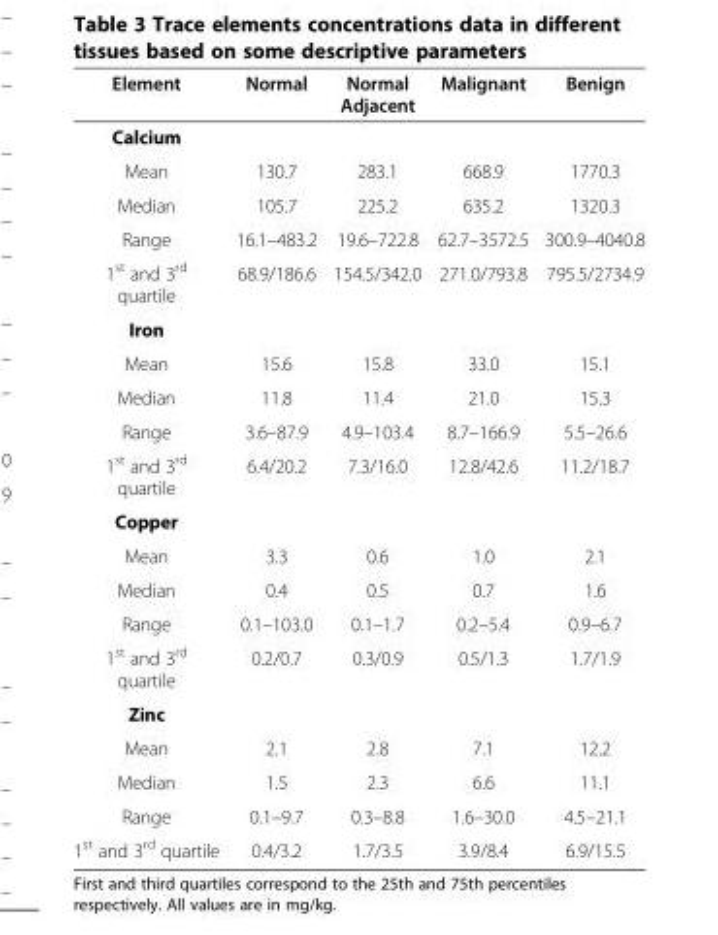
<table><thead><tr><td>Element</td><td>Normal</td><td>Normal Adjacent</td><td>Malignant</td><td>Benign</td></tr></thead><tbody><tr><td colspan="5">Calcium</td></tr><tr><td>Mean</td><td>130.7</td><td>283.1</td><td>668.9</td><td>1770.3</td></tr><tr><td>Median</td><td>105.7</td><td>225.2</td><td>635.2</td><td>1320.3</td></tr><tr><td>Range</td><td>16.1–483.2</td><td>19.6–722.8</td><td>62.7–3572.5</td><td>300.9–4040.8</td></tr><tr><td>1<sup>st</sup> and 3<sup>rd</sup> quartile</td><td>68.9/186.6</td><td>154.5/342.0</td><td>271.0/793.8</td><td>795.5/2734.9</td></tr><tr><td colspan="5">Iron</td></tr><tr><td>Mean</td><td>15.6</td><td>15.8</td><td>33.0</td><td>15.1</td></tr><tr><td>Median</td><td>11.8</td><td>11.4</td><td>21.0</td><td>15.3</td></tr><tr><td>Range</td><td>3.6–87.9</td><td>4.9–103.4</td><td>8.7–166.9</td><td>5.5–26.6</td></tr><tr><td>1<sup>st</sup> and 3<sup>rd</sup> quartile</td><td>6.4/20.2</td><td>7.3/16.0</td><td>12.8/42.6</td><td>11.2/18.7</td></tr><tr><td colspan="5">Copper</td></tr><tr><td>Mean</td><td>3.3</td><td>0.6</td><td>1.0</td><td>2.1</td></tr><tr><td>Median</td><td>0.4</td><td>0.5</td><td>0.7</td><td>1.6</td></tr><tr><td>Range</td><td>0.1–103.0</td><td>0.1–1.7</td><td>0.2–5.4</td><td>0.9–6.7</td></tr><tr><td>1<sup>st</sup> and 3<sup>rd</sup> quartile</td><td>0.2/0.7</td><td>0.3/0.9</td><td>0.5/1.3</td><td>1.7/1.9</td></tr><tr><td colspan="5">Zinc</td></tr><tr><td>Mean</td><td>2.1</td><td>2.8</td><td>7.1</td><td>12.2</td></tr><tr><td>Median</td><td>1.5</td><td>2.3</td><td>6.6</td><td>11.1</td></tr><tr><td>Range</td><td>0.1–9.7</td><td>0.3–8.8</td><td>1.6–30.0</td><td>4.5–21.1</td></tr><tr><td>1<sup>st</sup> and 3<sup>rd</sup> quartile</td><td>0.4/3.2</td><td>1.7/3.5</td><td>3.9/8.4</td><td>6.9/15.5</td></tr></tbody></table>